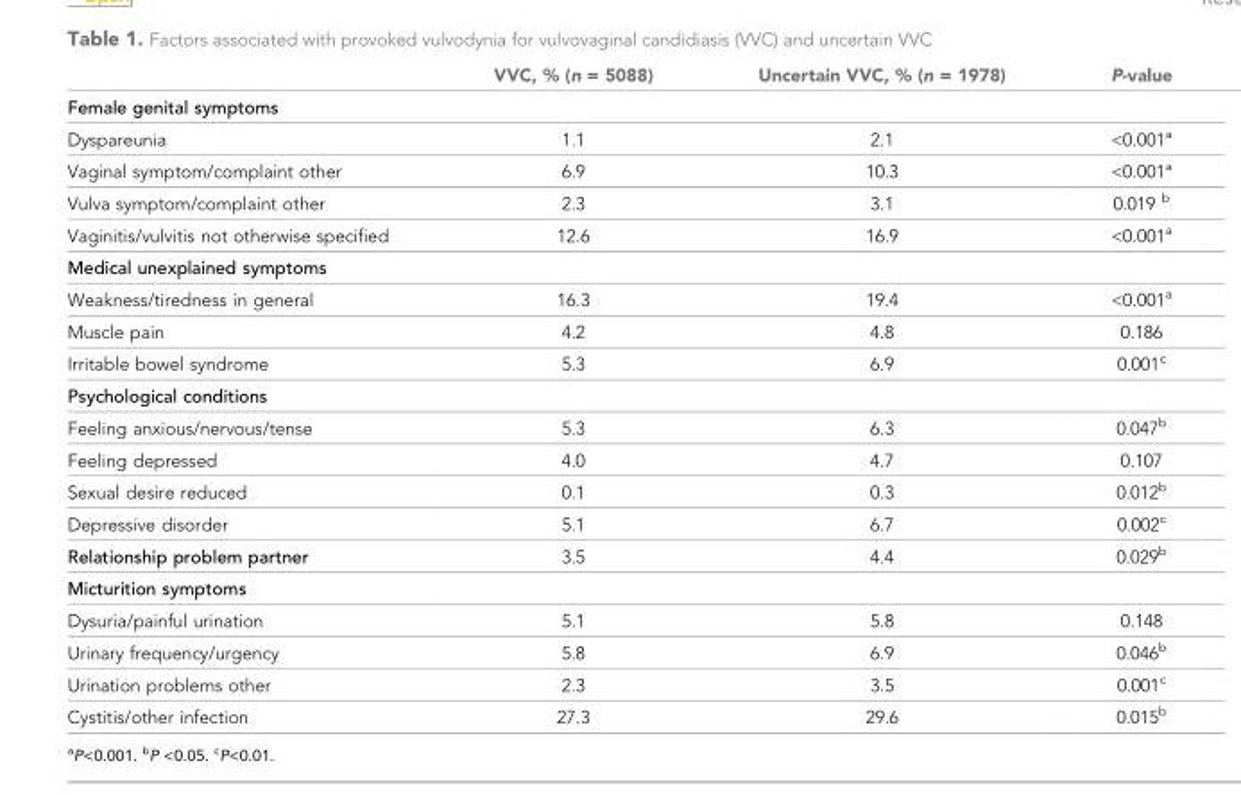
<table><thead><tr><td></td><td>VVC, % (n = 5088)</td><td>Uncertain VVC, % (n = 1978)</td><td>P-value</td></tr></thead><tbody><tr><td colspan="4">Female genital symptoms</td></tr><tr><td>Dyspareunia</td><td>1.1</td><td>2.1</td><td>&lt;0.001<sup>a</sup></td></tr><tr><td>Vaginal symptom/complaint other</td><td>6.9</td><td>10.3</td><td>&lt;0.001<sup>a</sup></td></tr><tr><td>Vulva symptom/complaint other</td><td>2.3</td><td>3.1</td><td>0.019 <sup>b</sup></td></tr><tr><td>Vaginitis/vulvitis not otherwise specified</td><td>12.6</td><td>16.9</td><td>&lt;0.001<sup>a</sup></td></tr><tr><td colspan="4">Medical unexplained symptoms</td></tr><tr><td>Weakness/tiredness in general</td><td>16.3</td><td>19.4</td><td>&lt;0.001<sup>a</sup></td></tr><tr><td>Muscle pain</td><td>4.2</td><td>4.8</td><td>0.186</td></tr><tr><td>Irritable bowel syndrome</td><td>5.3</td><td>6.9</td><td>0.001<sup>c</sup></td></tr><tr><td colspan="4">Psychological conditions</td></tr><tr><td>Feeling anxious/nervous/tense</td><td>5.3</td><td>6.3</td><td>0.047<sup>b</sup></td></tr><tr><td>Feeling depressed</td><td>4.0</td><td>4.7</td><td>0.107</td></tr><tr><td>Sexual desire reduced</td><td>0.1</td><td>0.3</td><td>0.012<sup>b</sup></td></tr><tr><td>Depressive disorder</td><td>5.1</td><td>6.7</td><td>0.002<sup>c</sup></td></tr><tr><td>Relationship problem partner</td><td>3.5</td><td>4.4</td><td>0.029<sup>b</sup></td></tr><tr><td colspan="4">Micturition symptoms</td></tr><tr><td>Dysuria/painful urination</td><td>5.1</td><td>5.8</td><td>0.148</td></tr><tr><td>Urinary frequency/urgency</td><td>5.8</td><td>6.9</td><td>0.046<sup>b</sup></td></tr><tr><td>Urination problems other</td><td>2.3</td><td>3.5</td><td>0.001<sup>c</sup></td></tr><tr><td>Cystitis/other infection</td><td>27.3</td><td>29.6</td><td>0.015<sup>b</sup></td></tr></tbody></table>